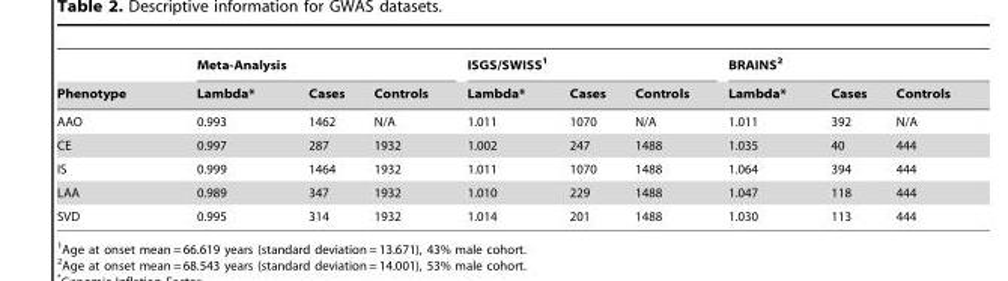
<table><thead><tr><td rowspan="2">Phenotype</td><td colspan="3">Meta-Analysis</td><td colspan="3">ISGS/SWISS<sup>1</sup></td><td colspan="3">BRAINS<sup>2</sup></td></tr><tr><td>Lambda*</td><td>Cases</td><td>Controls</td><td>Lambda*</td><td>Cases</td><td>Controls</td><td>Lambda*</td><td>Cases</td><td>Controls</td></tr></thead><tbody><tr><td>AAO</td><td>0.993</td><td>1462</td><td>N/A</td><td>1.011</td><td>1070</td><td>N/A</td><td>1.011</td><td>392</td><td>N/A</td></tr><tr><td>CE</td><td>0.997</td><td>287</td><td>1932</td><td>1.002</td><td>247</td><td>1488</td><td>1.035</td><td>40</td><td>444</td></tr><tr><td>IS</td><td>0.999</td><td>1464</td><td>1932</td><td>1.011</td><td>1070</td><td>1488</td><td>1.064</td><td>394</td><td>444</td></tr><tr><td>LAA</td><td>0.989</td><td>347</td><td>1932</td><td>1.010</td><td>229</td><td>1488</td><td>1.047</td><td>118</td><td>444</td></tr><tr><td>SVD</td><td>0.995</td><td>314</td><td>1932</td><td>1.014</td><td>201</td><td>1488</td><td>1.030</td><td>113</td><td>444</td></tr></tbody></table>